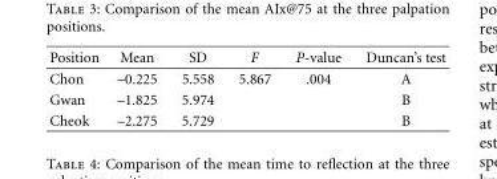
<table><thead><tr><td>Position</td><td>Mean</td><td>SD</td><td>F</td><td>P-value</td><td>Duncan’s test</td></tr></thead><tbody><tr><td>Chon</td><td>–0.225</td><td>5.558</td><td>5.867</td><td>.004</td><td>A</td></tr><tr><td>Gwan</td><td>–1.825</td><td>5.974</td><td></td><td></td><td>B</td></tr><tr><td>Cheok</td><td>–2.275</td><td>5.729</td><td></td><td></td><td>B</td></tr></tbody></table>